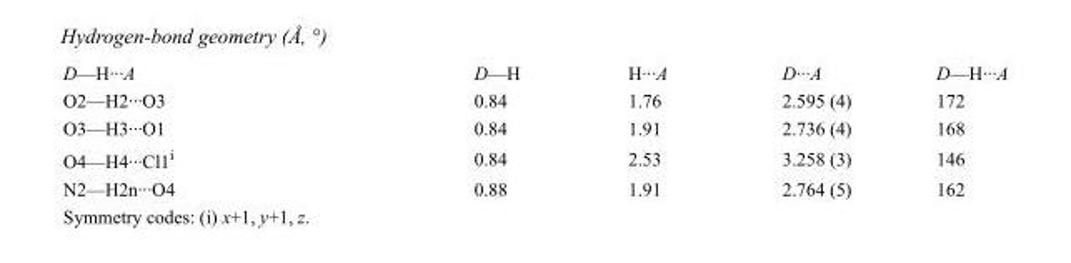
<table><tbody><tr><td>D—H···A</td><td>D—H</td><td>H···A</td><td>D···A</td><td>D—H···A</td></tr><tr><td>O2—H2···O3</td><td>0.84</td><td>1.76</td><td>2.595 (4)</td><td>172</td></tr><tr><td>O3—H3···O1</td><td>0.84</td><td>1.91</td><td>2.736 (4)</td><td>168</td></tr><tr><td>O4—H4···Cl1<sup>i</sup></td><td>0.84</td><td>2.53</td><td>3.258 (3)</td><td>146</td></tr><tr><td>N2—H2n···O4</td><td>0.88</td><td>1.91</td><td>2.764 (5)</td><td>162</td></tr></tbody></table>